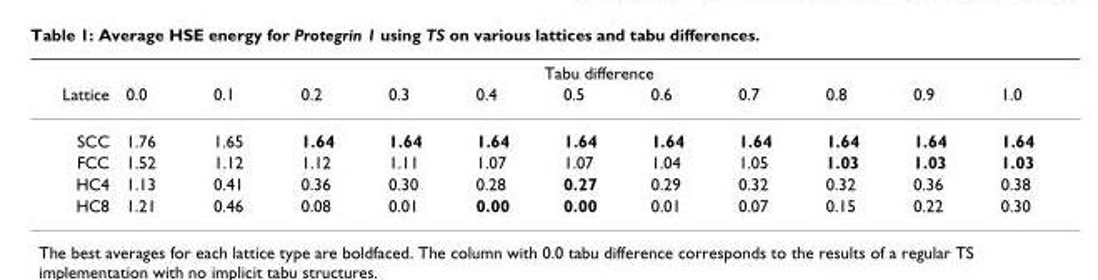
<table><thead><tr><td rowspan="2">Lattice</td><td colspan="11">Tabu difference</td></tr><tr><td>0.0</td><td>0.1</td><td>0.2</td><td>0.3</td><td>0.4</td><td>0.5</td><td>0.6</td><td>0.7</td><td>0.8</td><td>0.9</td><td>1.0</td></tr></thead><tbody><tr><td>SCC</td><td>1.76</td><td>1.65</td><td>1.64</td><td>1.64</td><td>1.64</td><td>1.64</td><td>1.64</td><td>1.64</td><td>1.64</td><td>1.64</td><td>1.64</td></tr><tr><td>FCC</td><td>1.52</td><td>1.12</td><td>1.12</td><td>1.11</td><td>1.07</td><td>1.07</td><td>1.04</td><td>1.05</td><td>1.03</td><td>1.03</td><td>1.03</td></tr><tr><td>HC4</td><td>1.13</td><td>0.41</td><td>0.36</td><td>0.30</td><td>0.28</td><td>0.27</td><td>0.29</td><td>0.32</td><td>0.32</td><td>0.36</td><td>0.38</td></tr><tr><td>HC8</td><td>1.21</td><td>0.46</td><td>0.08</td><td>0.01</td><td>0.00</td><td>0.00</td><td>0.01</td><td>0.07</td><td>0.15</td><td>0.22</td><td>0.30</td></tr></tbody></table>